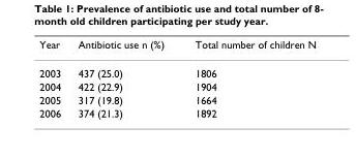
<table><thead><tr><td>Year</td><td>Antibiotic use n (%)</td><td>Total number of children N</td></tr></thead><tbody><tr><td>2003</td><td>437 (25.0)</td><td>1806</td></tr><tr><td>2004</td><td>422 (22.9)</td><td>1904</td></tr><tr><td>2005</td><td>317 (19.8)</td><td>1664</td></tr><tr><td>2006</td><td>374 (21.3)</td><td>1892</td></tr></tbody></table>